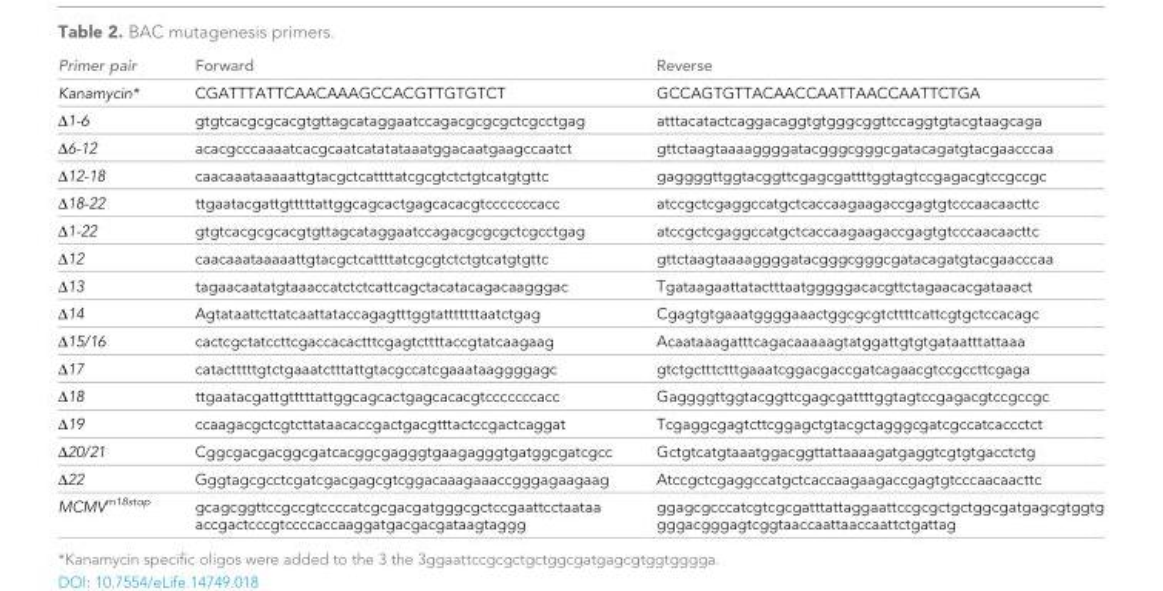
<table><thead><tr><td>Primer pair</td><td>Forward</td><td>Reverse</td></tr></thead><tbody><tr><td>Kanamycin*</td><td>CGATTTATTCAACAAAGCCACGTTGTGTCT</td><td>GCCAGTGTTACAACCAATTAACCAATTCTGA</td></tr><tr><td>Δ1-6</td><td>gtgtcacgcgcacgtgttagcataggaatccagacgcgcgctcgcctgag</td><td>atttacatactcaggacaggtgtgggcggttccaggtgtacgtaagcaga</td></tr><tr><td>Δ6-12</td><td>acacgcccaaaatcacgcaatcatatataaatggacaatgaagccaatct</td><td>gttctaagtaaaaggggatacgggcgggcgatacagatgtacgaacccaa</td></tr><tr><td>Δ12-18</td><td>caacaaataaaaattgtacgctcattttatcgcgtctctgtcatgtgttc</td><td>gaggggttggtacggttcgagcgattttggtagtccgagacgtccgccgc</td></tr><tr><td>Δ18-22</td><td>ttgaatacgattgtttttattggcagcactgagcacacgtcccccccacc</td><td>atccgctcgaggccatgctcaccaagaagaccgagtgtcccaacaacttc</td></tr><tr><td>Δ1-22</td><td>gtgtcacgcgcacgtgttagcataggaatccagacgcgcgctcgcctgag</td><td>atccgctcgaggccatgctcaccaagaagaccgagtgtcccaacaacttc</td></tr><tr><td>Δ12</td><td>caacaaataaaaattgtacgctcattttatcgcgtctctgtcatgtgttc</td><td>gttctaagtaaaaggggatacgggcgggcgatacagatgtacgaacccaa</td></tr><tr><td>Δ13</td><td>tagaacaatatgtaaaccatctctcattcagctacatacagacaagggac</td><td>Tgataagaattatactttaatgggggacacgttctagaacacgataaact</td></tr><tr><td>Δ14</td><td>Agtataattcttatcaattataccagagtttggtatttttttaatctgag</td><td>Cgagtgtgaaatggggaaactggcgcgtcttttcattcgtgctccacagc</td></tr><tr><td>Δ15/16</td><td>cactcgctatccttcgaccacactttcgagtcttttaccgtatcaagaag</td><td>Acaataaagatttcagacaaaaagtatggattgtgtgataatttattaaa</td></tr><tr><td>Δ17</td><td>catactttttgtctgaaatctttattgtacgccatcgaaataaggggagc</td><td>gtctgctttctttgaaatcggacgaccgatcagaacgtccgccttcgaga</td></tr><tr><td>∆18</td><td>ttgaatacgattgtttttattggcagcactgagcacacgtcccccccacc</td><td>Gaggggttggtacggttcgagcgattttggtagtccgagacgtccgccgc</td></tr><tr><td>∆19</td><td>ccaagacgctcgtcttataacaccgactgacgtttactccgactcaggat</td><td>Tcgaggcgagtcttcggagctgtacgctagggcgatcgccatcaccctct</td></tr><tr><td>∆20/21</td><td>Cggcgacgacggcgatcacggcgagggtgaagagggtgatggcgatcgcc</td><td>Gctgtcatgtaaatggacggttattaaaagatgaggtcgtgtgacctctg</td></tr><tr><td>∆22</td><td>Gggtagcgcctcgatcgacgagcgtcggacaaagaaaccgggagaagaag</td><td>Atccgctcgaggccatgctcaccaagaagaccgagtgtcccaacaacttc</td></tr><tr><td>MCMV<sup>m18stop</sup></td><td>gcagcggttccgccgtccccatcgcgacgatgggcgctccgaattcctaataa accgactcccgtccccaccaaggatgacgacgataagtaggg</td><td>ggagcgcccatcgtcgcgatttattaggaattccgcgctgctggcgatgagcgtggtg gggacgggagtcggtaaccaattaaccaattctgattag</td></tr></tbody></table>